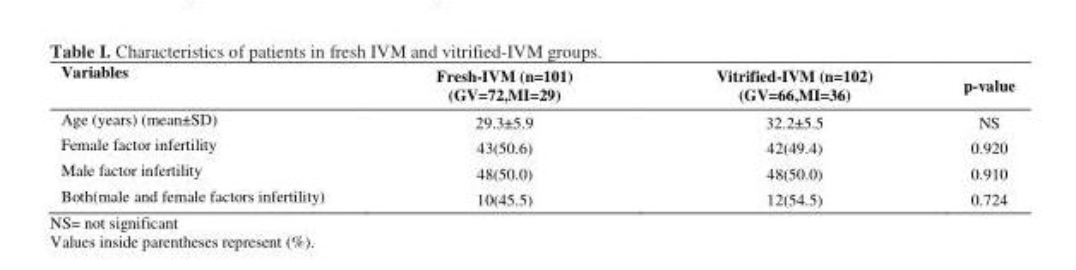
<table><thead><tr><td>Variables</td><td>Fresh-IVM (n=101) (GV=72,MI=29)</td><td>Vitrified-IVM (n=102) (GV=66,MI=36)</td><td>p-value</td></tr></thead><tbody><tr><td>Age (years) (mean±SD)</td><td>29.3±5.9</td><td>32.2±5.5</td><td>NS</td></tr><tr><td>Female factor infertility</td><td>43(50.6)</td><td>42(49.4)</td><td>0.920</td></tr><tr><td>Male factor infertility</td><td>48(50.0)</td><td>48(50.0)</td><td>0.910</td></tr><tr><td>Both(male and female factors infertility)</td><td>10(45.5)</td><td>12(54.5)</td><td>0.724</td></tr></tbody></table>